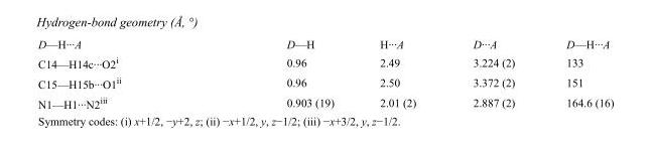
<table><tbody><tr><td>D—H···A</td><td>D—H</td><td>H···A</td><td>D···A</td><td>D—H···A</td></tr><tr><td>C14—H14c···O2<sup>i</sup></td><td>0.96</td><td>2.49</td><td>3.224 (2)</td><td>133</td></tr><tr><td>C15—H15b···O1<sup>ii</sup></td><td>0.96</td><td>2.50</td><td>3.372 (2)</td><td>151</td></tr><tr><td>N1—H1···N2<sup>iii</sup></td><td>0.903 (19)</td><td>2.01 (2)</td><td>2.887 (2)</td><td>164.6 (16)</td></tr></tbody></table>